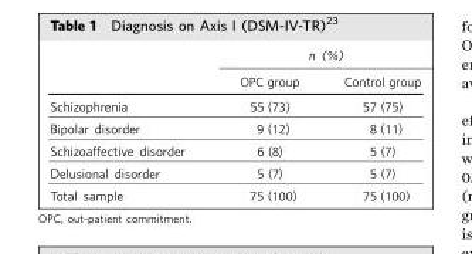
<table><thead><tr><td rowspan="2"></td><td colspan="2">n (%)</td></tr><tr><td>OPC group</td><td>Control group</td></tr></thead><tbody><tr><td>Schizophrenia</td><td>55 (73)</td><td>57 (75)</td></tr><tr><td>Bipolar disorder</td><td>9 (12)</td><td>8 (11)</td></tr><tr><td>Schizoaffective disorder</td><td>6 (8)</td><td>5 (7)</td></tr><tr><td>Delusional disorder</td><td>5 (7)</td><td>5 (7)</td></tr><tr><td>Total sample</td><td>75 (100)</td><td>75 (100)</td></tr></tbody></table>